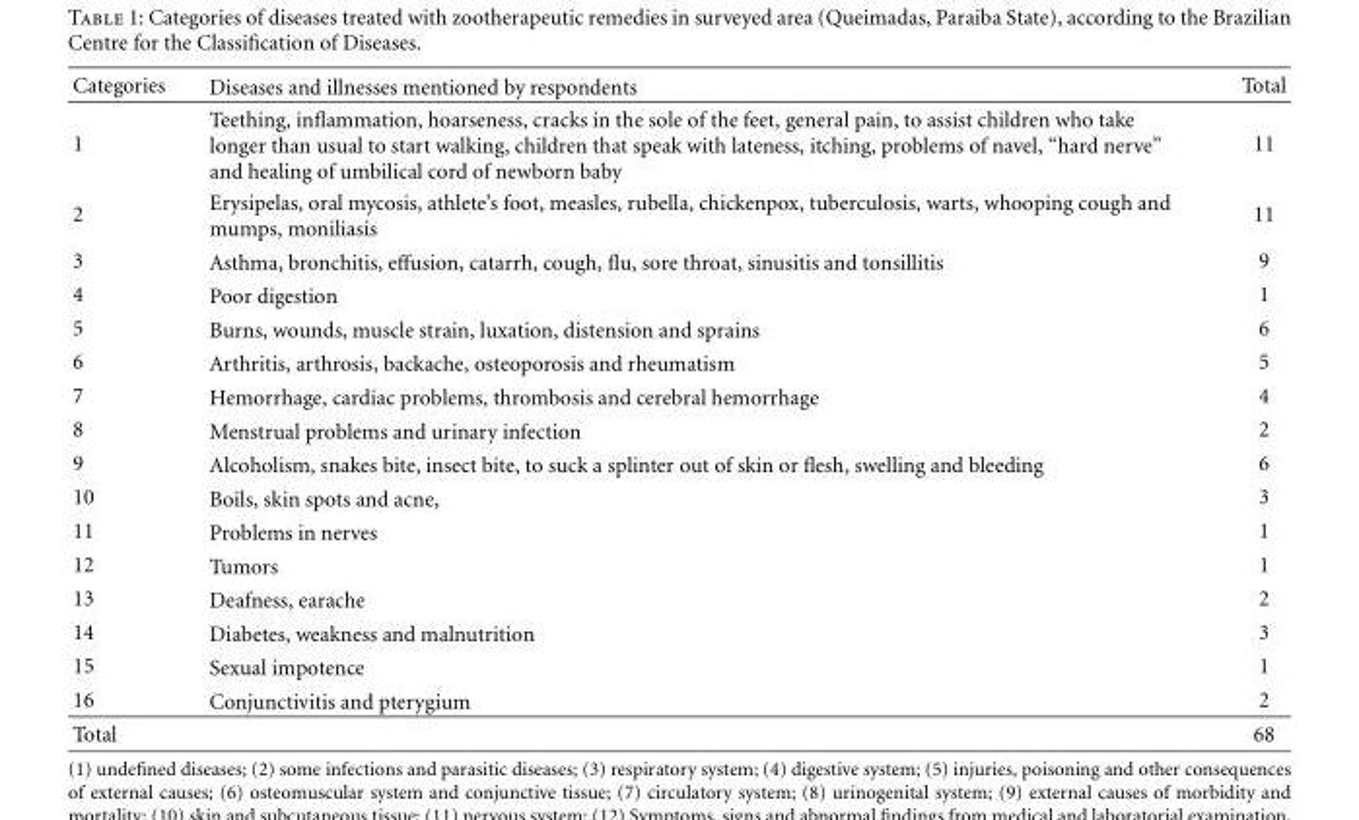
<table><thead><tr><td>Categories</td><td>Diseases and illnesses mentioned by respondents</td><td>Total</td></tr></thead><tbody><tr><td>1</td><td>Teething, inflammation, hoarseness, cracks in the sole of the feet, general pain, to assist children who take longer than usual to start walking, children that speak with lateness, itching, problems of navel, “hard nerve” and healing of umbilical cord of newborn baby</td><td>11</td></tr><tr><td>2</td><td>Erysipelas, oral mycosis, athlete’s foot, measles, rubella, chickenpox, tuberculosis, warts, whooping cough and mumps, moniliasis</td><td>11</td></tr><tr><td>3</td><td>Asthma, bronchitis, effusion, catarrh, cough, flu, sore throat, sinusitis and tonsillitis</td><td>9</td></tr><tr><td>4</td><td>Poor digestion</td><td>1</td></tr><tr><td>5</td><td>Burns, wounds, muscle strain, luxation, distension and sprains</td><td>6</td></tr><tr><td>6</td><td>Arthritis, arthrosis, backache, osteoporosis and rheumatism</td><td>5</td></tr><tr><td>7</td><td>Hemorrhage, cardiac problems, thrombosis and cerebral hemorrhage</td><td>4</td></tr><tr><td>8</td><td>Menstrual problems and urinary infection</td><td>2</td></tr><tr><td>9</td><td>Alcoholism, snakes bite, insect bite, to suck a splinter out of skin or flesh, swelling and bleeding</td><td>6</td></tr><tr><td>10</td><td>Boils, skin spots and acne,</td><td>3</td></tr><tr><td>11</td><td>Problems in nerves</td><td>1</td></tr><tr><td>12</td><td>Tumors</td><td>1</td></tr><tr><td>13</td><td>Deafness, earache</td><td>2</td></tr><tr><td>14</td><td>Diabetes, weakness and malnutrition</td><td>3</td></tr><tr><td>15</td><td>Sexual impotence</td><td>1</td></tr><tr><td>16</td><td>Conjunctivitis and pterygium</td><td>2</td></tr><tr><td>Total</td><td></td><td>68</td></tr></tbody></table>